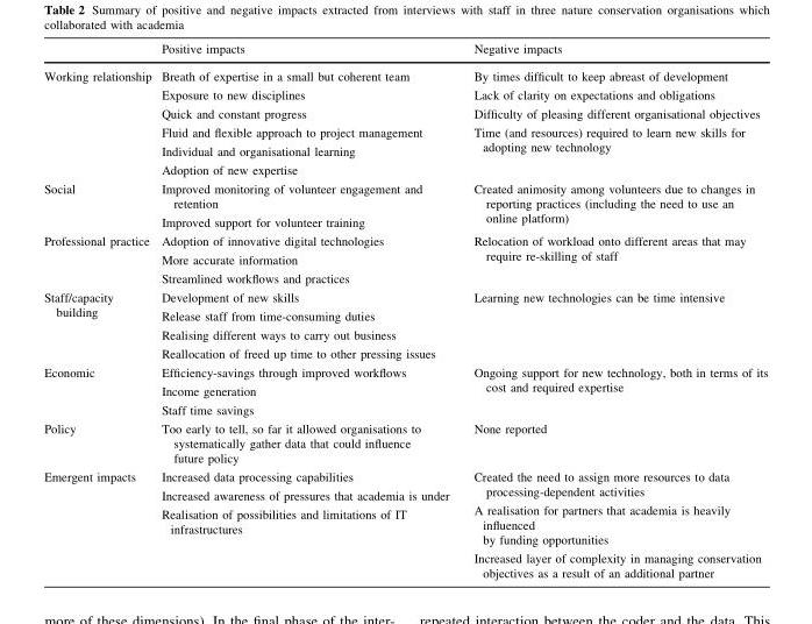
<table><thead><tr><td></td><td>Positive impacts</td><td>Negative impacts</td></tr></thead><tbody><tr><td>Working relationship</td><td>Breath of expertise in a small but coherent team Exposure to new disciplines Quick and constant progress Fluid and flexible approach to project management Individual and organisational learning Adoption of new expertise</td><td>By times difficult to keep abreast of development Lack of clarity on expectations and obligations Difficulty of pleasing different organisational objectives Time (and resources) required to learn new skills for adopting new technology</td></tr><tr><td>Social</td><td>Improved monitoring of volunteer engagement and retention Improved support for volunteer training</td><td>Created animosity among volunteers due to changes in reporting practices (including the need to use an online platform)</td></tr><tr><td>Professional practice</td><td>Adoption of innovative digital technologies More accurate information Streamlined workflows and practices</td><td>Relocation of workload onto different areas that may require re-skilling of staff</td></tr><tr><td>Staff/capacity building</td><td>Development of new skills Release staff from time-consuming duties Realising different ways to carry out business Reallocation of freed up time to other pressing issues</td><td>Learning new technologies can be time intensive</td></tr><tr><td>Economic</td><td>Efficiency-savings through improved workflows Income generation Staff time savings</td><td>Ongoing support for new technology, both in terms of its cost and required expertise</td></tr><tr><td>Policy</td><td>Too early to tell, so far it allowed organisations to systematically gather data that could influence future policy</td><td>None reported</td></tr><tr><td>Emergent impacts</td><td>Increased data processing capabilities Increased awareness of pressures that academia is under Realisation of possibilities and limitations of IT infrastructures</td><td>Created the need to assign more resources to data processing-dependent activities A realisation for partners that academia is heavily influenced by funding opportunities Increased layer of complexity in managing conservation objectives as a result of an additional partner</td></tr></tbody></table>